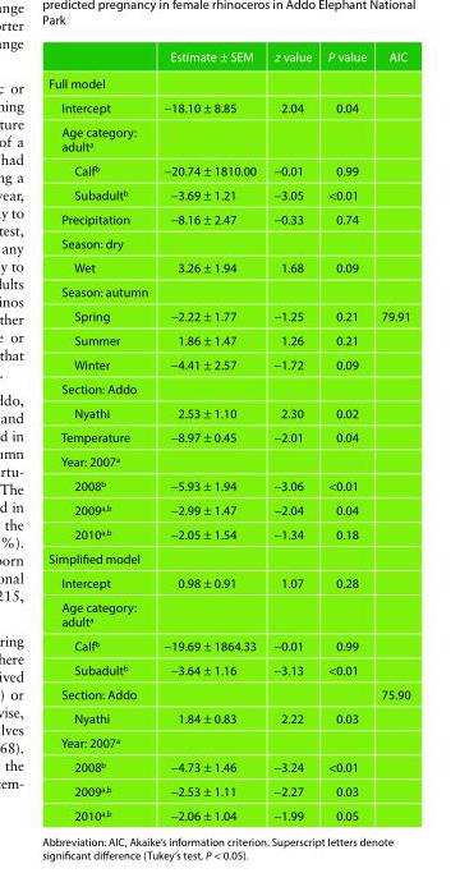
<table><thead><tr><td></td><td>Estimate ± SEM</td><td>z value</td><td>P value</td><td>AIC</td></tr></thead><tbody><tr><td colspan="5">Full model</td></tr><tr><td>Intercept</td><td>−18.10 ± 8.85</td><td>2.04</td><td>0.04</td><td></td></tr><tr><td colspan="5">Age category: adult<sup>a</sup></td></tr><tr><td>Calf<sup>b</sup></td><td>−20.74 ± 1810.00</td><td>−0.01</td><td>0.99</td><td></td></tr><tr><td>Subadult<sup>b</sup></td><td>−3.69 ± 1.21</td><td>−3.05</td><td>&lt;0.01</td><td></td></tr><tr><td>Precipitation</td><td>−8.16 ± 2.47</td><td>−0.33</td><td>0.74</td><td></td></tr><tr><td colspan="5">Season: dry</td></tr><tr><td>Wet</td><td>3.26 ± 1.94</td><td>1.68</td><td>0.09</td><td></td></tr><tr><td colspan="5">Season: autumn</td></tr><tr><td>Spring</td><td>−2.22 ± 1.77</td><td>−1.25</td><td>0.21</td><td>79.91</td></tr><tr><td>Summer</td><td>1.86 ± 1.47</td><td>1.26</td><td>0.21</td><td></td></tr><tr><td>Winter</td><td>−4.41 ± 2.57</td><td>−1.72</td><td>0.09</td><td></td></tr><tr><td colspan="5">Section: Addo</td></tr><tr><td>Nyathi</td><td>2.53 ± 1.10</td><td>2.30</td><td>0.02</td><td></td></tr><tr><td>Temperature</td><td>−8.97 ± 0.45</td><td>−2.01</td><td>0.04</td><td></td></tr><tr><td colspan="5">Year: 2007<sup>a</sup></td></tr><tr><td>2008<sup>b</sup></td><td>−5.93 ± 1.94</td><td>−3.06</td><td>&lt;0.01</td><td></td></tr><tr><td>2009<sup>a,b</sup></td><td>−2.99 ± 1.47</td><td>−2.04</td><td>0.04</td><td></td></tr><tr><td>2010<sup>a,b</sup></td><td>−2.05 ± 1.54</td><td>−1.34</td><td>0.18</td><td></td></tr><tr><td colspan="5">Simplified model</td></tr><tr><td>Intercept</td><td>0.98 ± 0.91</td><td>1.07</td><td>0.28</td><td></td></tr><tr><td colspan="5">Age category: adult<sup>a</sup></td></tr><tr><td>Calf<sup>b</sup></td><td>−19.69 ± 1864.33</td><td>−0.01</td><td>0.99</td><td></td></tr><tr><td>Subadult<sup>b</sup></td><td>−3.64 ± 1.16</td><td>−3.13</td><td>&lt;0.01</td><td></td></tr><tr><td>Section: Addo</td><td></td><td></td><td></td><td>75.90</td></tr><tr><td>Nyathi</td><td>1.84 ± 0.83</td><td>2.22</td><td>0.03</td><td></td></tr><tr><td colspan="5">Year: 2007<sup>a</sup></td></tr><tr><td>2008<sup>b</sup></td><td>−4.73 ± 1.46</td><td>−3.24</td><td>&lt;0.01</td><td></td></tr><tr><td>2009<sup>a,b</sup></td><td>−2.53 ± 1.11</td><td>−2.27</td><td>0.03</td><td></td></tr><tr><td>2010<sup>a,b</sup></td><td>−2.06 ± 1.04</td><td>−1.99</td><td>0.05</td><td></td></tr></tbody></table>